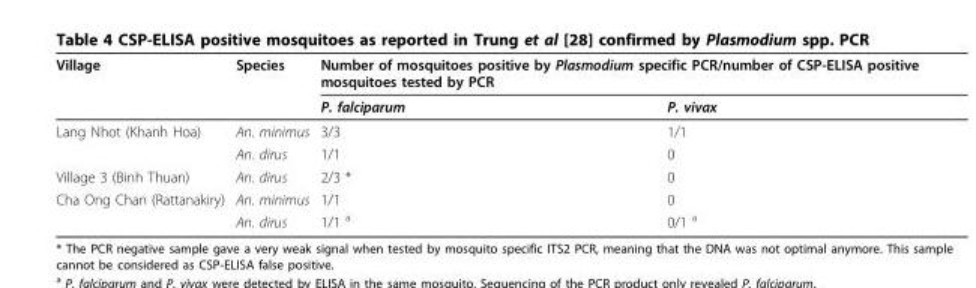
<table><thead><tr><td rowspan="2">Village</td><td rowspan="2">Species</td><td colspan="2">Number of mosquitoes positive by Plasmodium specific PCR/number of CSP-ELISA positive mosquitoes tested by PCR</td></tr><tr><td>P. falciparum</td><td>P. vivax</td></tr></thead><tbody><tr><td rowspan="2">Lang Nhot (Khanh Hoa)</td><td>An. minimus</td><td>3/3</td><td>1/1</td></tr><tr><td>An. dirus</td><td>1/1</td><td>0</td></tr><tr><td>Village 3 (Binh Thuan)</td><td>An. dirus</td><td>2/3 *</td><td>0</td></tr><tr><td rowspan="2">Cha Ong Chan (Rattanakiry)</td><td>An. minimus</td><td>1/1</td><td>0</td></tr><tr><td>An. dirus</td><td>1/1 <sup>a</sup></td><td>0/1 <sup>a</sup></td></tr></tbody></table>